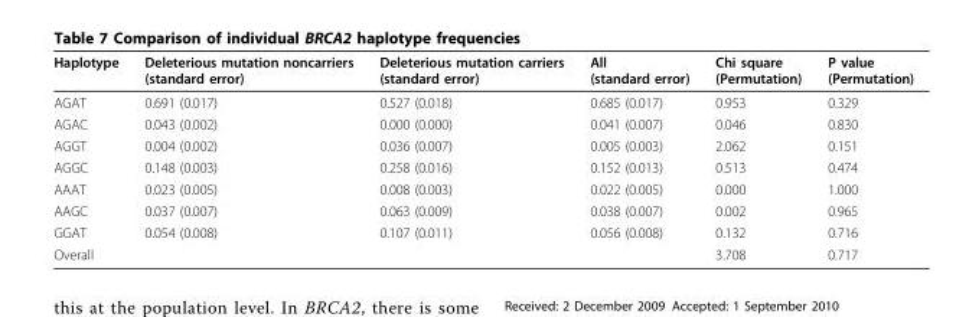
<table><thead><tr><td>Haplotype</td><td>Deleterious mutation noncarriers (standard error)</td><td>Deleterious mutation carriers (standard error)</td><td>All (standard error)</td><td>Chi square (Permutation)</td><td>P value (Permutation)</td></tr></thead><tbody><tr><td>AGAT</td><td>0.691 (0.017)</td><td>0.527 (0.018)</td><td>0.685 (0.017)</td><td>0.953</td><td>0.329</td></tr><tr><td>AGAC</td><td>0.043 (0.002)</td><td>0.000 (0.000)</td><td>0.041 (0.007)</td><td>0.046</td><td>0.830</td></tr><tr><td>AGGT</td><td>0.004 (0.002)</td><td>0.036 (0.007)</td><td>0.005 (0.003)</td><td>2.062</td><td>0.151</td></tr><tr><td>AGGC</td><td>0.148 (0.003)</td><td>0.258 (0.016)</td><td>0.152 (0.013)</td><td>0.513</td><td>0.474</td></tr><tr><td>AAAT</td><td>0.023 (0.005)</td><td>0.008 (0.003)</td><td>0.022 (0.005)</td><td>0.000</td><td>1.000</td></tr><tr><td>AAGC</td><td>0.037 (0.007)</td><td>0.063 (0.009)</td><td>0.038 (0.007)</td><td>0.002</td><td>0.965</td></tr><tr><td>GGAT</td><td>0.054 (0.008)</td><td>0.107 (0.011)</td><td>0.056 (0.008)</td><td>0.132</td><td>0.716</td></tr><tr><td>Overall</td><td></td><td></td><td></td><td>3.708</td><td>0.717</td></tr></tbody></table>